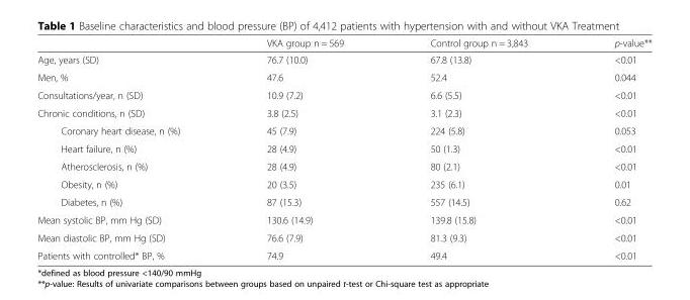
<table><thead><tr><td></td><td>VKA group n = 569</td><td>Control group n = 3,843</td><td>p-value**</td></tr></thead><tbody><tr><td>Age, years (SD)</td><td>76.7 (10.0)</td><td>67.8 (13.8)</td><td>&lt;0.01</td></tr><tr><td>Men, %</td><td>47.6</td><td>52.4</td><td>0.044</td></tr><tr><td>Consultations/year, n (SD)</td><td>10.9 (7.2)</td><td>6.6 (5.5)</td><td>&lt;0.01</td></tr><tr><td>Chronic conditions, n (SD)</td><td>3.8 (2.5)</td><td>3.1 (2.3)</td><td>&lt;0.01</td></tr><tr><td>Coronary heart disease, n (%)</td><td>45 (7.9)</td><td>224 (5.8)</td><td>0.053</td></tr><tr><td>Heart failure, n (%)</td><td>28 (4.9)</td><td>50 (1.3)</td><td>&lt;0.01</td></tr><tr><td>Atherosclerosis, n (%)</td><td>28 (4.9)</td><td>80 (2.1)</td><td>&lt;0.01</td></tr><tr><td>Obesity, n (%)</td><td>20 (3.5)</td><td>235 (6.1)</td><td>0.01</td></tr><tr><td>Diabetes, n (%)</td><td>87 (15.3)</td><td>557 (14.5)</td><td>0.62</td></tr><tr><td>Mean systolic BP, mm Hg (SD)</td><td>130.6 (14.9)</td><td>139.8 (15.8)</td><td>&lt;0.01</td></tr><tr><td>Mean diastolic BP, mm Hg (SD)</td><td>76.6 (7.9)</td><td>81.3 (9.3)</td><td>&lt;0.01</td></tr><tr><td>Patients with controlled* BP, %</td><td>74.9</td><td>49.4</td><td>&lt;0.01</td></tr></tbody></table>